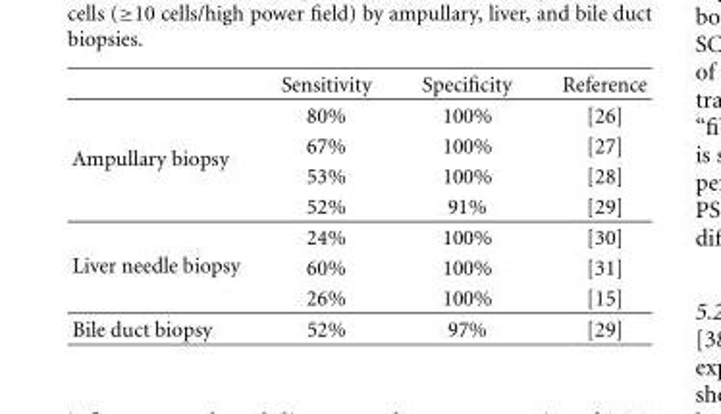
<table><thead><tr><td></td><td>Sensitivity</td><td>Specificity</td><td>Reference</td></tr></thead><tbody><tr><td rowspan="4">Ampullary biopsy</td><td>80%</td><td>100%</td><td>[26]</td></tr><tr><td>67%</td><td>100%</td><td>[27]</td></tr><tr><td>53%</td><td>100%</td><td>[28]</td></tr><tr><td>52%</td><td>91%</td><td>[29]</td></tr><tr><td rowspan="3">Liver needle biopsy</td><td>24%</td><td>100%</td><td>[30]</td></tr><tr><td>60%</td><td>100%</td><td>[31]</td></tr><tr><td>26%</td><td>100%</td><td>[15]</td></tr><tr><td>Bile duct biopsy</td><td>52%</td><td>97%</td><td>[29]</td></tr></tbody></table>